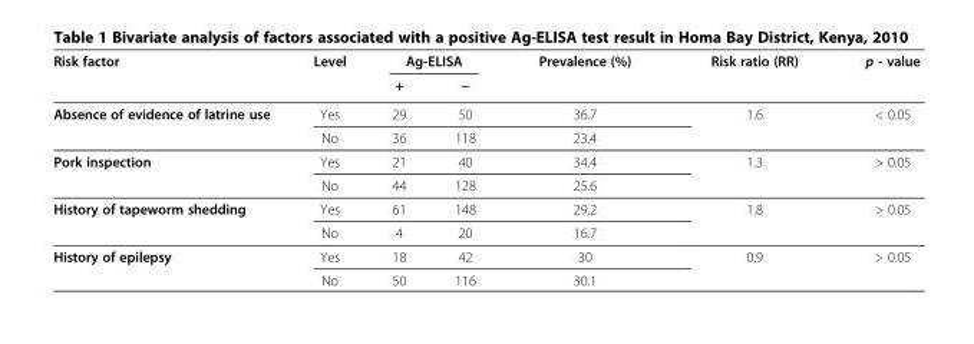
<table><thead><tr><td rowspan="2">Risk factor</td><td rowspan="2">Level</td><td colspan="2">Ag-ELISA</td><td rowspan="2">Prevalence (%)</td><td rowspan="2">Risk ratio (RR)</td><td rowspan="2">p - value</td></tr><tr><td>+</td><td>−</td></tr></thead><tbody><tr><td rowspan="2">Absence of evidence of latrine use</td><td>Yes</td><td>29</td><td>50</td><td>36.7</td><td rowspan="2">1.6</td><td rowspan="2">&lt; 0.05</td></tr><tr><td>No</td><td>36</td><td>118</td><td>23.4</td></tr><tr><td rowspan="2">Pork inspection</td><td>Yes</td><td>21</td><td>40</td><td>34.4</td><td rowspan="2">1.3</td><td rowspan="2">&gt; 0.05</td></tr><tr><td>No</td><td>44</td><td>128</td><td>25.6</td></tr><tr><td rowspan="2">History of tapeworm shedding</td><td>Yes</td><td>61</td><td>148</td><td>29.2</td><td rowspan="2">1.8</td><td rowspan="2">&gt; 0.05</td></tr><tr><td>No</td><td>4</td><td>20</td><td>16.7</td></tr><tr><td rowspan="2">History of epilepsy</td><td>Yes</td><td>18</td><td>42</td><td>30</td><td rowspan="2">0.9</td><td rowspan="2">&gt; 0.05</td></tr><tr><td>No</td><td>50</td><td>116</td><td>30.1</td></tr></tbody></table>